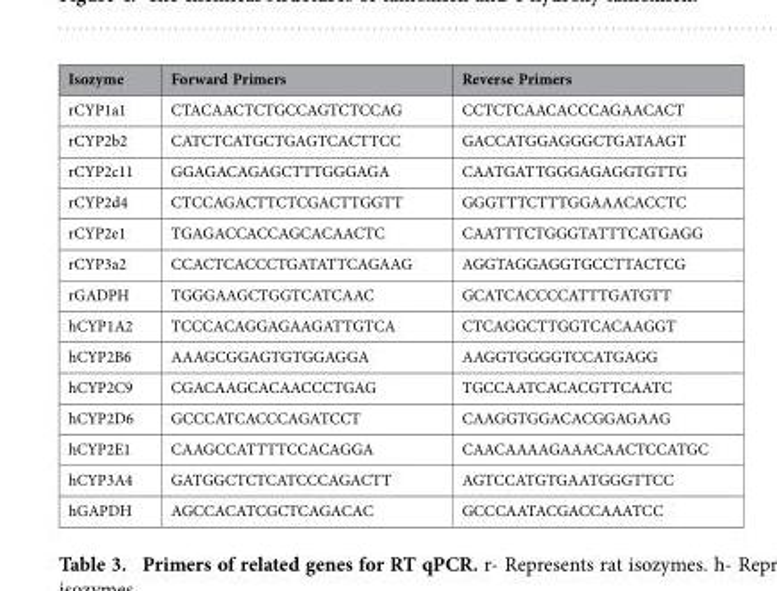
<table><thead><tr><td>Isozyme</td><td>Forward Primers</td><td>Reverse Primers</td></tr></thead><tbody><tr><td>rCYP1a1</td><td>CTACAACTCTGCCAGTCTCCAG</td><td>CCTCTCAACACCCAGAACACT</td></tr><tr><td>rCYP2b2</td><td>CATCTCATGCTGAGTCACTTCC</td><td>GACCATGGAGGGCTGATAAGT</td></tr><tr><td>rCYP2c11</td><td>GGAGACAGAGCTTTGGGAGA</td><td>CAATGATTGGGAGAGGTGTTG</td></tr><tr><td>rCYP2d4</td><td>CTCCAGACTTCTCGACTTGGTT</td><td>GGGTTTCTTTGGAAACACCTC</td></tr><tr><td>rCYP2e1</td><td>TGAGACCACCAGCACAACTC</td><td>CAATTTCTGGGTATTTCATGAGG</td></tr><tr><td>rCYP3a2</td><td>CCACTCACCCTGATATTCAGAAG</td><td>AGGTAGGAGGTGCCTTACTCG</td></tr><tr><td>rGADPH</td><td>TGGGAAGCTGGTCATCAAC</td><td>GCATCACCCCATTTGATGTT</td></tr><tr><td>hCYP1A2</td><td>TCCCACAGGAGAAGATTGTCA</td><td>CTCAGGCTTGGTCACAAGGT</td></tr><tr><td>hCYP2B6</td><td>AAAGCGGAGTGTGGAGGA</td><td>AAGGTGGGGTCCATGAGG</td></tr><tr><td>hCYP2C9</td><td>CGACAAGCACAACCCTGAG</td><td>TGCCAATCACACGTTCAATC</td></tr><tr><td>hCYP2D6</td><td>GCCCATCACCCAGATCCT</td><td>CAAGGTGGACACGGAGAAG</td></tr><tr><td>hCYP2E1</td><td>CAAGCCATTTTCCACAGGA</td><td>CAACAAAAGAAACAACTCCATGC</td></tr><tr><td>hCYP3A4</td><td>GATGGCTCTCATCCCAGACTT</td><td>AGTCCATGTGAATGGGTTCC</td></tr><tr><td>hGAPDH</td><td>AGCCACATCGCTCAGACAC</td><td>GCCCAATACGACCAAATCC</td></tr></tbody></table>